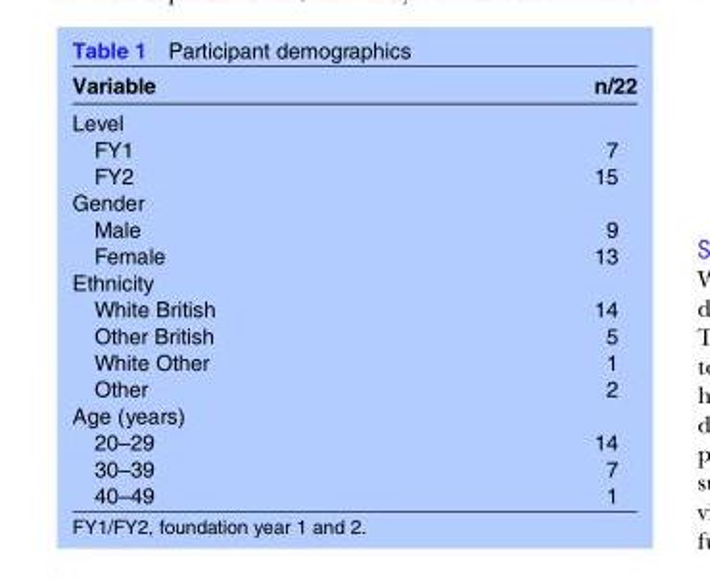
<table><thead><tr><td>Variable</td><td>n/22</td></tr></thead><tbody><tr><td colspan="2">Level</td></tr><tr><td>FY1</td><td>7</td></tr><tr><td>FY2</td><td>15</td></tr><tr><td colspan="2">Gender</td></tr><tr><td>Male</td><td>9</td></tr><tr><td>Female</td><td>13</td></tr><tr><td colspan="2">Ethnicity</td></tr><tr><td>White British</td><td>14</td></tr><tr><td>Other British</td><td>5</td></tr><tr><td>White Other</td><td>1</td></tr><tr><td>Other</td><td>2</td></tr><tr><td colspan="2">Age (years)</td></tr><tr><td>20–29</td><td>14</td></tr><tr><td>30–39</td><td>7</td></tr><tr><td>40–49</td><td>1</td></tr></tbody></table>